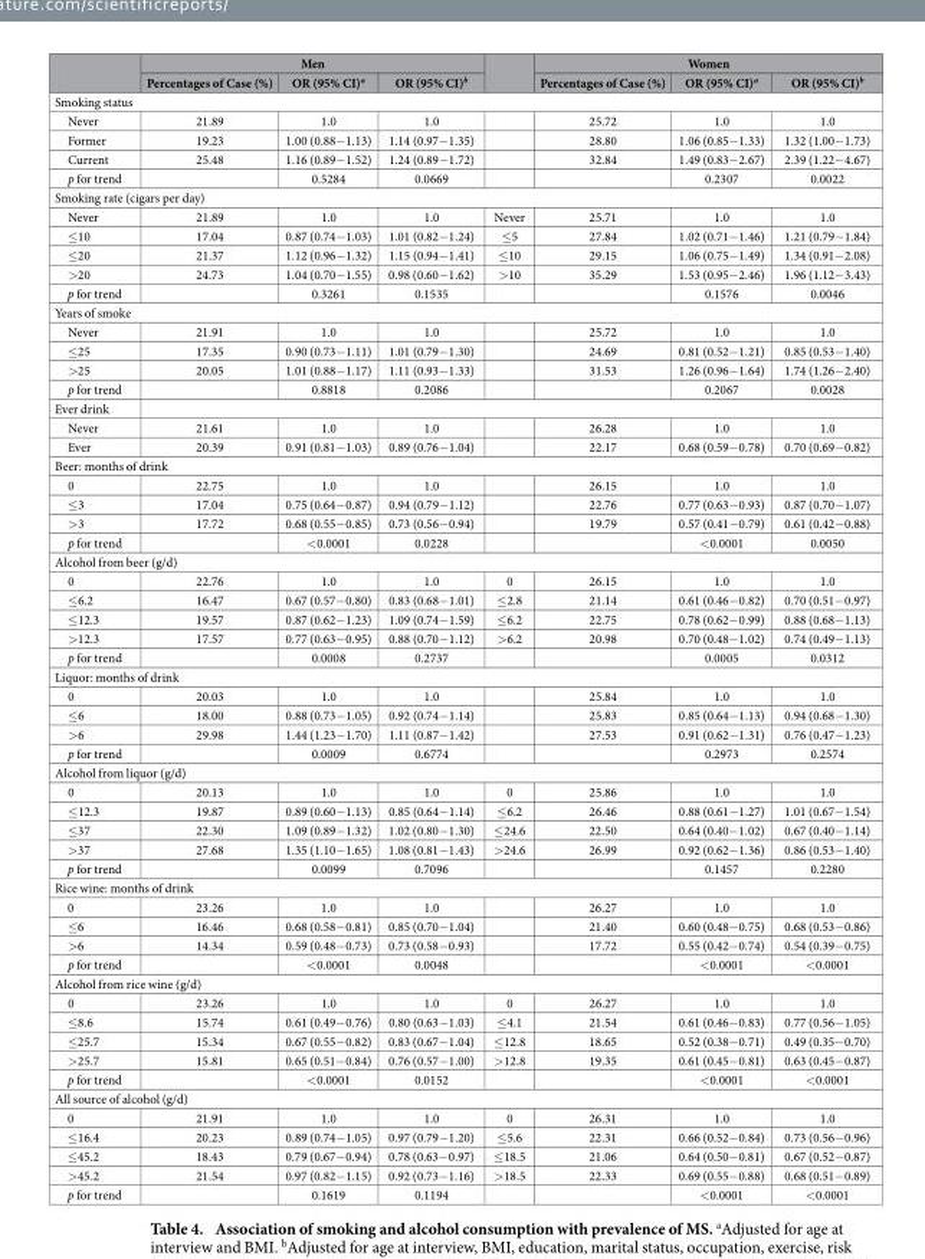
<table><thead><tr><td rowspan="2"></td><td colspan="3">Men</td><td rowspan="2"></td><td colspan="3">Women</td></tr><tr><td>Percentages of Case (%)</td><td>OR (95% CI)<sup>a</sup></td><td>OR (95% CI)<sup>b</sup></td><td>Percentages of Case (%)</td><td>OR (95% CI)<sup>a</sup></td><td>OR (95% CI)<sup>b</sup></td></tr></thead><tbody><tr><td colspan="8">Smoking status</td></tr><tr><td>Never</td><td>21.89</td><td>1.0</td><td>1.0</td><td></td><td>25.72</td><td>1.0</td><td>1.0</td></tr><tr><td>Former</td><td>19.23</td><td>1.00 (0.88− 1.13)</td><td>1.14 (0.97− 1.35)</td><td></td><td>28.80</td><td>1.06 (0.85− 1.33)</td><td>1.32 (1.00− 1.73)</td></tr><tr><td>Current</td><td>25.48</td><td>1.16 (0.89− 1.52)</td><td>1.24 (0.89− 1.72)</td><td></td><td>32.84</td><td>1.49 (0.83− 2.67)</td><td>2.39 (1.22− 4.67)</td></tr><tr><td>p for trend</td><td></td><td>0.5284</td><td>0.0669</td><td></td><td></td><td>0.2307</td><td>0.0022</td></tr><tr><td colspan="8">Smoking rate (cigars per day)</td></tr><tr><td>Never</td><td>21.89</td><td>1.0</td><td>1.0</td><td>Never</td><td>25.71</td><td>1.0</td><td>1.0</td></tr><tr><td>≤ 10</td><td>17.04</td><td>0.87 (0.74− 1.03)</td><td>1.01 (0.82− 1.24)</td><td>≤ 5</td><td>27.84</td><td>1.02 (0.71− 1.46)</td><td>1.21 (0.79− 1.84)</td></tr><tr><td>≤ 20</td><td>21.37</td><td>1.12 (0.96− 1.32)</td><td>1.15 (0.94− 1.41)</td><td>≤ 10</td><td>29.15</td><td>1.06 (0.75− 1.49)</td><td>1.34 (0.91− 2.08)</td></tr><tr><td>&gt; 20</td><td>24.73</td><td>1.04 (0.70− 1.55)</td><td>0.98 (0.60− 1.62)</td><td>&gt; 10</td><td>35.29</td><td>1.53 (0.95− 2.46)</td><td>1.96 (1.12− 3.43)</td></tr><tr><td>p for trend</td><td></td><td>0.3261</td><td>0.1535</td><td></td><td></td><td>0.1576</td><td>0.0046</td></tr><tr><td colspan="8">Years of smoke</td></tr><tr><td>Never</td><td>21.91</td><td>1.0</td><td>1.0</td><td></td><td>25.72</td><td>1.0</td><td>1.0</td></tr><tr><td>≤ 25</td><td>17.35</td><td>0.90 (0.73− 1.11)</td><td>1.01 (0.79− 1.30)</td><td></td><td>24.69</td><td>0.81 (0.52− 1.21)</td><td>0.85 (0.53− 1.40)</td></tr><tr><td>&gt; 25</td><td>20.05</td><td>1.01 (0.88− 1.17)</td><td>1.11 (0.93− 1.33)</td><td></td><td>31.53</td><td>1.26 (0.96− 1.64)</td><td>1.74 (1.26− 2.40)</td></tr><tr><td>p for trend</td><td></td><td>0.8818</td><td>0.2086</td><td></td><td></td><td>0.2067</td><td>0.0028</td></tr><tr><td colspan="8">Ever drink</td></tr><tr><td>Never</td><td>21.61</td><td>1.0</td><td>1.0</td><td></td><td>26.28</td><td>1.0</td><td>1.0</td></tr><tr><td>Ever</td><td>20.39</td><td>0.91 (0.81− 1.03)</td><td>0.89 (0.76− 1.04)</td><td></td><td>22.17</td><td>0.68 (0.59− 0.78)</td><td>0.70 (0.69− 0.82)</td></tr><tr><td colspan="8">Beer: months of drink</td></tr><tr><td>0</td><td>22.75</td><td>1.0</td><td>1.0</td><td></td><td>26.15</td><td>1.0</td><td>1.0</td></tr><tr><td>≤ 3</td><td>17.04</td><td>0.75 (0.64− 0.87)</td><td>0.94 (0.79− 1.12)</td><td></td><td>22.76</td><td>0.77 (0.63− 0.93)</td><td>0.87 (0.70− 1.07)</td></tr><tr><td>&gt; 3</td><td>17.72</td><td>0.68 (0.55− 0.85)</td><td>0.73 (0.56− 0.94)</td><td></td><td>19.79</td><td>0.57 (0.41− 0.79)</td><td>0.61 (0.42− 0.88)</td></tr><tr><td>p for trend</td><td></td><td>&lt; 0.0001</td><td>0.0228</td><td></td><td></td><td>&lt; 0.0001</td><td>0.0050</td></tr><tr><td colspan="8">Alcohol from beer (g/d)</td></tr><tr><td>0</td><td>22.76</td><td>1.0</td><td>1.0</td><td>0</td><td>26.15</td><td>1.0</td><td>1.0</td></tr><tr><td>≤ 6.2</td><td>16.47</td><td>0.67 (0.57− 0.80)</td><td>0.83 (0.68− 1.01)</td><td>≤ 2.8</td><td>21.14</td><td>0.61 (0.46− 0.82)</td><td>0.70 (0.51− 0.97)</td></tr><tr><td>≤ 12.3</td><td>19.57</td><td>0.87 (0.62− 1.23)</td><td>1.09 (0.74− 1.59)</td><td>≤ 6.2</td><td>22.75</td><td>0.78 (0.62− 0.99)</td><td>0.88 (0.68− 1.13)</td></tr><tr><td>&gt; 12.3</td><td>17.57</td><td>0.77 (0.63− 0.95)</td><td>0.88 (0.70− 1.12)</td><td>&gt; 6.2</td><td>20.98</td><td>0.70 (0.48− 1.02)</td><td>0.74 (0.49− 1.13)</td></tr><tr><td>p for trend</td><td></td><td>0.0008</td><td>0.2737</td><td></td><td></td><td>0.0005</td><td>0.0312</td></tr><tr><td colspan="8">Liquor: months of drink</td></tr><tr><td>0</td><td>20.03</td><td>1.0</td><td>1.0</td><td></td><td>25.84</td><td>1.0</td><td>1.0</td></tr><tr><td>≤ 6</td><td>18.00</td><td>0.88 (0.73− 1.05)</td><td>0.92 (0.74− 1.14)</td><td></td><td>25.83</td><td>0.85 (0.64− 1.13)</td><td>0.94 (0.68− 1.30)</td></tr><tr><td>&gt; 6</td><td>29.98</td><td>1.44 (1.23− 1.70)</td><td>1.11 (0.87− 1.42)</td><td></td><td>27.53</td><td>0.91 (0.62− 1.31)</td><td>0.76 (0.47− 1.23)</td></tr><tr><td>p for trend</td><td></td><td>0.0009</td><td>0.6774</td><td></td><td></td><td>0.2973</td><td>0.2574</td></tr><tr><td colspan="8">Alcohol from liquor (g/d)</td></tr><tr><td>0</td><td>20.13</td><td>1.0</td><td>1.0</td><td>0</td><td>25.86</td><td>1.0</td><td>1.0</td></tr><tr><td>≤ 12.3</td><td>19.87</td><td>0.89 (0.60− 1.13)</td><td>0.85 (0.64− 1.14)</td><td>≤ 6.2</td><td>26.46</td><td>0.88 (0.61− 1.27)</td><td>1.01 (0.67− 1.54)</td></tr><tr><td>≤ 37</td><td>22.30</td><td>1.09 (0.89− 1.32)</td><td>1.02 (0.80− 1.30)</td><td>≤ 24.6</td><td>22.50</td><td>0.64 (0.40− 1.02)</td><td>0.67 (0.40− 1.14)</td></tr><tr><td>&gt; 37</td><td>27.68</td><td>1.35 (1.10− 1.65)</td><td>1.08 (0.81− 1.43)</td><td>&gt; 24.6</td><td>26.99</td><td>0.92 (0.62− 1.36)</td><td>0.86 (0.53− 1.40)</td></tr><tr><td>p for trend</td><td></td><td>0.0099</td><td>0.7096</td><td></td><td></td><td>0.1457</td><td>0.2280</td></tr><tr><td colspan="8">Rice wine: months of drink</td></tr><tr><td>0</td><td>23.26</td><td>1.0</td><td>1.0</td><td></td><td>26.27</td><td>1.0</td><td>1.0</td></tr><tr><td>≤ 6</td><td>16.46</td><td>0.68 (0.58− 0.81)</td><td>0.85 (0.70− 1.04)</td><td></td><td>21.40</td><td>0.60 (0.48− 0.75)</td><td>0.68 (0.53− 0.86)</td></tr><tr><td>&gt; 6</td><td>14.34</td><td>0.59 (0.48− 0.73)</td><td>0.73 (0.58− 0.93)</td><td></td><td>17.72</td><td>0.55 (0.42− 0.74)</td><td>0.54 (0.39− 0.75)</td></tr><tr><td>p for trend</td><td></td><td>&lt; 0.0001</td><td>0.0048</td><td></td><td></td><td>&lt; 0.0001</td><td>&lt; 0.0001</td></tr><tr><td colspan="8">Alcohol from rice wine (g/d)</td></tr><tr><td>0</td><td>23.26</td><td>1.0</td><td>1.0</td><td>0</td><td>26.27</td><td>1.0</td><td>1.0</td></tr><tr><td>≤ 8.6</td><td>15.74</td><td>0.61 (0.49− 0.76)</td><td>0.80 (0.63− 1.03)</td><td>≤ 4.1</td><td>21.54</td><td>0.61 (0.46− 0.83)</td><td>0.77 (0.56− 1.05)</td></tr><tr><td>≤ 25.7</td><td>15.34</td><td>0.67 (0.55− 0.82)</td><td>0.83 (0.67− 1.04)</td><td>≤ 12.8</td><td>18.65</td><td>0.52 (0.38− 0.71)</td><td>0.49 (0.35− 0.70)</td></tr><tr><td>&gt; 25.7</td><td>15.81</td><td>0.65 (0.51− 0.84)</td><td>0.76 (0.57− 1.00)</td><td>&gt; 12.8</td><td>19.35</td><td>0.61 (0.45− 0.81)</td><td>0.63 (0.45− 0.87)</td></tr><tr><td>p for trend</td><td></td><td>&lt; 0.0001</td><td>0.0152</td><td></td><td></td><td>&lt; 0.0001</td><td>&lt; 0.0001</td></tr><tr><td colspan="8">All source of alcohol (g/d)</td></tr><tr><td>0</td><td>21.91</td><td>1.0</td><td>1.0</td><td>0</td><td>26.31</td><td>1.0</td><td>1.0</td></tr><tr><td>≤ 16.4</td><td>20.23</td><td>0.89 (0.74− 1.05)</td><td>0.97 (0.79− 1.20)</td><td>≤ 5.6</td><td>22.31</td><td>0.66 (0.52− 0.84)</td><td>0.73 (0.56− 0.96)</td></tr><tr><td>≤ 45.2</td><td>18.43</td><td>0.79 (0.67− 0.94)</td><td>0.78 (0.63− 0.97)</td><td>≤ 18.5</td><td>21.06</td><td>0.64 (0.50− 0.81)</td><td>0.67 (0.52− 0.87)</td></tr><tr><td>&gt; 45.2</td><td>21.54</td><td>0.97 (0.82− 1.15)</td><td>0.92 (0.73− 1.16)</td><td>&gt; 18.5</td><td>22.33</td><td>0.69 (0.55− 0.88)</td><td>0.68 (0.51− 0.89)</td></tr><tr><td>p for trend</td><td></td><td>0.1619</td><td>0.1194</td><td></td><td></td><td>&lt; 0.0001</td><td>&lt; 0.0001</td></tr></tbody></table>